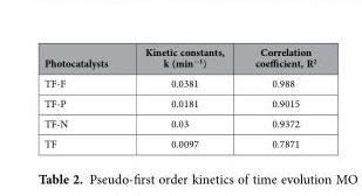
<table><thead><tr><td>Photocatalysts</td><td>Kinetic constants, k (min<sup>−1</sup>)</td><td>Correlation coefficient, R<sup>2</sup></td></tr></thead><tbody><tr><td>TF-F</td><td>0.0381</td><td>0.988</td></tr><tr><td>TF-P</td><td>0.0181</td><td>0.9015</td></tr><tr><td>TF-N</td><td>0.03</td><td>0.9372</td></tr><tr><td>TF</td><td>0.0097</td><td>0.7871</td></tr></tbody></table>